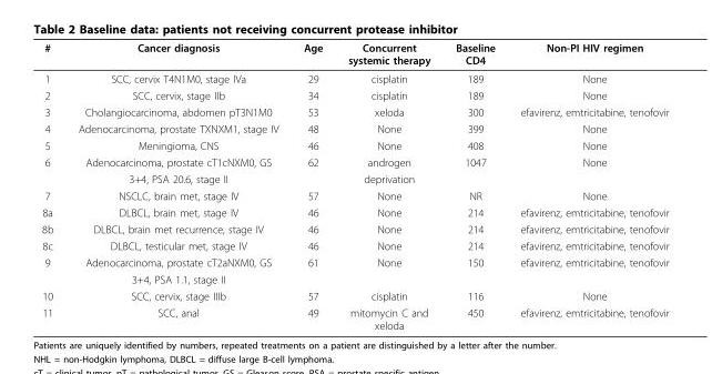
<table><thead><tr><td>#</td><td>Cancer diagnosis</td><td>Age</td><td>Concurrent systemic therapy</td><td>Baseline CD4</td><td>Non-PI HIV regimen</td></tr></thead><tbody><tr><td>1</td><td>SCC, cervix T4N1M0, stage IVa</td><td>29</td><td>cisplatin</td><td>189</td><td>None</td></tr><tr><td>2</td><td>SCC, cervix, stage IIb</td><td>34</td><td>cisplatin</td><td>189</td><td>None</td></tr><tr><td>3</td><td>Cholangiocarcinoma, abdomen pT3N1M0</td><td>53</td><td>xeloda</td><td>300</td><td>efavirenz, emtricitabine, tenofovir</td></tr><tr><td>4</td><td>Adenocarcinoma, prostate TXNXM1, stage IV</td><td>48</td><td>None</td><td>399</td><td>None</td></tr><tr><td>5</td><td>Meningioma, CNS</td><td>46</td><td>None</td><td>408</td><td>None</td></tr><tr><td rowspan="2">6</td><td>Adenocarcinoma, prostate cT1cNXM0, GS</td><td>62</td><td>androgen</td><td>1047</td><td>None</td></tr><tr><td>3+4, PSA 20.6, stage II</td><td></td><td>deprivation</td><td></td><td></td></tr><tr><td>7</td><td>NSCLC, brain met, stage IV</td><td>57</td><td>None</td><td>NR</td><td>None</td></tr><tr><td>8a</td><td>DLBCL, brain met, stage IV</td><td>46</td><td>None</td><td>214</td><td>efavirenz, emtricitabine, tenofovir</td></tr><tr><td>8b</td><td>DLBCL, brain met recurrence, stage IV</td><td>46</td><td>None</td><td>214</td><td>efavirenz, emtricitabine, tenofovir</td></tr><tr><td>8c</td><td>DLBCL, testicular met, stage IV</td><td>46</td><td>None</td><td>214</td><td>efavirenz, emtricitabine, tenofovir</td></tr><tr><td rowspan="2">9</td><td>Adenocarcinoma, prostate cT2aNXM0, GS</td><td>61</td><td>None</td><td>150</td><td>efavirenz, emtricitabine, tenofovir</td></tr><tr><td>3+4, PSA 1.1, stage II</td><td></td><td></td><td></td><td></td></tr><tr><td>10</td><td>SCC, cervix, stage IIIb</td><td>57</td><td>cisplatin</td><td>116</td><td>None</td></tr><tr><td>11</td><td>SCC, anal</td><td>49</td><td>mitomycin C and xeloda</td><td>450</td><td>efavirenz, emtricitabine, tenofovir</td></tr></tbody></table>